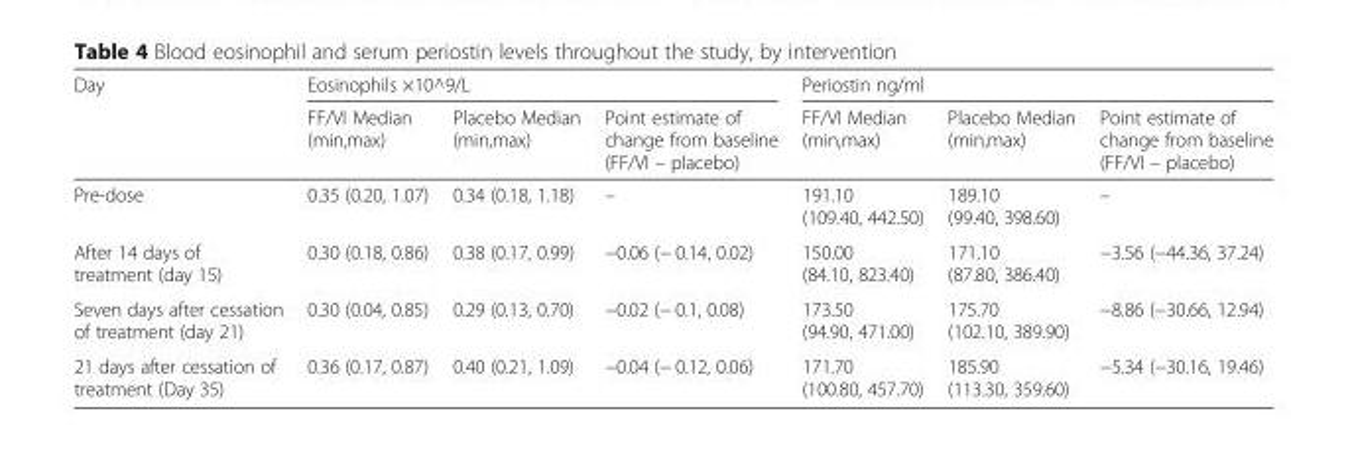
<table><thead><tr><td rowspan="2">Day</td><td colspan="3">Eosinophils ×10^9/L</td><td colspan="3">Periostin ng/ml</td></tr><tr><td>FF/VI Median (min,max)</td><td>Placebo Median (min,max)</td><td>Point estimate of change from baseline (FF/VI – placebo)</td><td>FF/VI Median (min,max)</td><td>Placebo Median (min,max)</td><td>Point estimate of change from baseline (FF/VI – placebo)</td></tr></thead><tbody><tr><td>Pre-dose</td><td>0.35 (0.20, 1.07)</td><td>0.34 (0.18, 1.18)</td><td>–</td><td>191.10 (109.40, 442.50)</td><td>189.10 (99.40, 398.60)</td><td>–</td></tr><tr><td>After 14 days of treatment (day 15)</td><td>0.30 (0.18, 0.86)</td><td>0.38 (0.17, 0.99)</td><td>−0.06 (− 0.14, 0.02)</td><td>150.00 (84.10, 823.40)</td><td>171.10 (87.80, 386.40)</td><td>−3.56 (−44.36, 37.24)</td></tr><tr><td>Seven days after cessation of treatment (day 21)</td><td>0.30 (0.04, 0.85)</td><td>0.29 (0.13, 0.70)</td><td>−0.02 (− 0.1, 0.08)</td><td>173.50 (94.90, 471.00)</td><td>175.70 (102.10, 389.90)</td><td>−8.86 (−30.66, 12.94)</td></tr><tr><td>21 days after cessation of treatment (Day 35)</td><td>0.36 (0.17, 0.87)</td><td>0.40 (0.21, 1.09)</td><td>−0.04 (− 0.12, 0.06)</td><td>171.70 (100.80, 457.70)</td><td>185.90 (113.30, 359.60)</td><td>−5.34 (−30.16, 19.46)</td></tr></tbody></table>